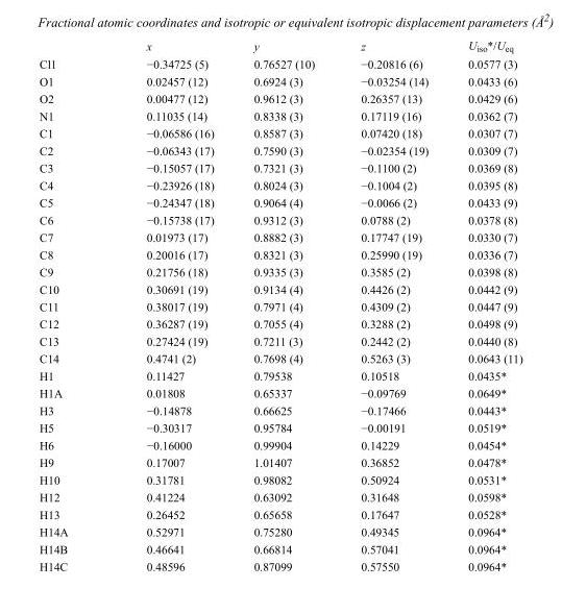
<table><thead><tr><td></td><td>x</td><td>y</td><td>z</td><td>U<sub>iso</sub>*/U<sub>eq</sub></td></tr></thead><tbody><tr><td>Cl1</td><td>−0.34725 (5)</td><td>0.76527 (10)</td><td>−0.20816 (6)</td><td>0.0577 (3)</td></tr><tr><td>O1</td><td>0.02457 (12)</td><td>0.6924 (3)</td><td>−0.03254 (14)</td><td>0.0433 (6)</td></tr><tr><td>O2</td><td>0.00477 (12)</td><td>0.9612 (3)</td><td>0.26357 (13)</td><td>0.0429 (6)</td></tr><tr><td>N1</td><td>0.11035 (14)</td><td>0.8338 (3)</td><td>0.17119 (16)</td><td>0.0362 (7)</td></tr><tr><td>C1</td><td>−0.06586 (16)</td><td>0.8587 (3)</td><td>0.07420 (18)</td><td>0.0307 (7)</td></tr><tr><td>C2</td><td>−0.06343 (17)</td><td>0.7590 (3)</td><td>−0.02354 (19)</td><td>0.0309 (7)</td></tr><tr><td>C3</td><td>−0.15057 (17)</td><td>0.7321 (3)</td><td>−0.1100 (2)</td><td>0.0369 (8)</td></tr><tr><td>C4</td><td>−0.23926 (18)</td><td>0.8024 (3)</td><td>−0.1004 (2)</td><td>0.0395 (8)</td></tr><tr><td>C5</td><td>−0.24347 (18)</td><td>0.9064 (4)</td><td>−0.0066 (2)</td><td>0.0433 (9)</td></tr><tr><td>C6</td><td>−0.15738 (17)</td><td>0.9312 (3)</td><td>0.0788 (2)</td><td>0.0378 (8)</td></tr><tr><td>C7</td><td>0.01973 (17)</td><td>0.8882 (3)</td><td>0.17747 (19)</td><td>0.0330 (7)</td></tr><tr><td>C8</td><td>0.20016 (17)</td><td>0.8321 (3)</td><td>0.25990 (19)</td><td>0.0336 (7)</td></tr><tr><td>C9</td><td>0.21756 (18)</td><td>0.9335 (3)</td><td>0.3585 (2)</td><td>0.0398 (8)</td></tr><tr><td>C10</td><td>0.30691 (19)</td><td>0.9134 (4)</td><td>0.4426 (2)</td><td>0.0442 (9)</td></tr><tr><td>C11</td><td>0.38017 (19)</td><td>0.7971 (4)</td><td>0.4309 (2)</td><td>0.0447 (9)</td></tr><tr><td>C12</td><td>0.36287 (19)</td><td>0.7055 (4)</td><td>0.3288 (2)</td><td>0.0498 (9)</td></tr><tr><td>C13</td><td>0.27424 (19)</td><td>0.7211 (3)</td><td>0.2442 (2)</td><td>0.0440 (8)</td></tr><tr><td>C14</td><td>0.4741 (2)</td><td>0.7698 (4)</td><td>0.5263 (3)</td><td>0.0643 (11)</td></tr><tr><td>H1</td><td>0.11427</td><td>0.79538</td><td>0.10518</td><td>0.0435*</td></tr><tr><td>H1A</td><td>0.01808</td><td>0.65337</td><td>−0.09769</td><td>0.0649*</td></tr><tr><td>H3</td><td>−0.14878</td><td>0.66625</td><td>−0.17466</td><td>0.0443*</td></tr><tr><td>H5</td><td>−0.30317</td><td>0.95784</td><td>−0.00191</td><td>0.0519*</td></tr><tr><td>H6</td><td>−0.16000</td><td>0.99904</td><td>0.14229</td><td>0.0454*</td></tr><tr><td>H9</td><td>0.17007</td><td>1.01407</td><td>0.36852</td><td>0.0478*</td></tr><tr><td>H10</td><td>0.31781</td><td>0.98082</td><td>0.50924</td><td>0.0531*</td></tr><tr><td>H12</td><td>0.41224</td><td>0.63092</td><td>0.31648</td><td>0.0598*</td></tr><tr><td>H13</td><td>0.26452</td><td>0.65658</td><td>0.17647</td><td>0.0528*</td></tr><tr><td>H14A</td><td>0.52971</td><td>0.75280</td><td>0.49345</td><td>0.0964*</td></tr><tr><td>H14B</td><td>0.46641</td><td>0.66814</td><td>0.57041</td><td>0.0964*</td></tr><tr><td>H14C</td><td>0.48596</td><td>0.87099</td><td>0.57550</td><td>0.0964*</td></tr></tbody></table>